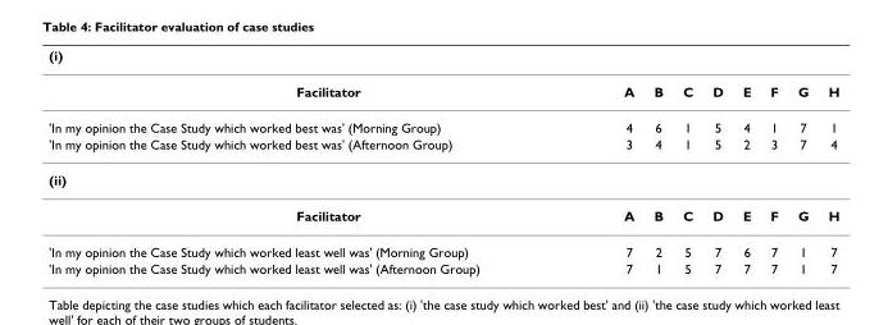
<table><thead><tr><td>(i)</td><td></td><td></td><td></td><td></td><td></td><td></td><td></td><td></td></tr></thead><tbody><tr><td>Facilitator</td><td>A</td><td>B</td><td>C</td><td>D</td><td>E</td><td>F</td><td>G</td><td>H</td></tr><tr><td>&#x27;In my opinion the Case Study which worked best was&#x27; (Morning Group)</td><td>4</td><td>6</td><td>1</td><td>5</td><td>4</td><td>1</td><td>7</td><td>1</td></tr><tr><td>&#x27;In my opinion the Case Study which worked best was&#x27; (Afternoon Group)</td><td>3</td><td>4</td><td>1</td><td>5</td><td>2</td><td>3</td><td>7</td><td>4</td></tr><tr><td colspan="9">(ii)</td></tr><tr><td>Facilitator</td><td>A</td><td>B</td><td>C</td><td>D</td><td>E</td><td>F</td><td>G</td><td>H</td></tr><tr><td>&#x27;In my opinion the Case Study which worked least well was&#x27; (Morning Group)</td><td>7</td><td>2</td><td>5</td><td>7</td><td>6</td><td>7</td><td>1</td><td>7</td></tr><tr><td>&#x27;In my opinion the Case Study which worked least well was&#x27; (Afternoon Group)</td><td>7</td><td>1</td><td>5</td><td>7</td><td>7</td><td>7</td><td>1</td><td>7</td></tr></tbody></table>